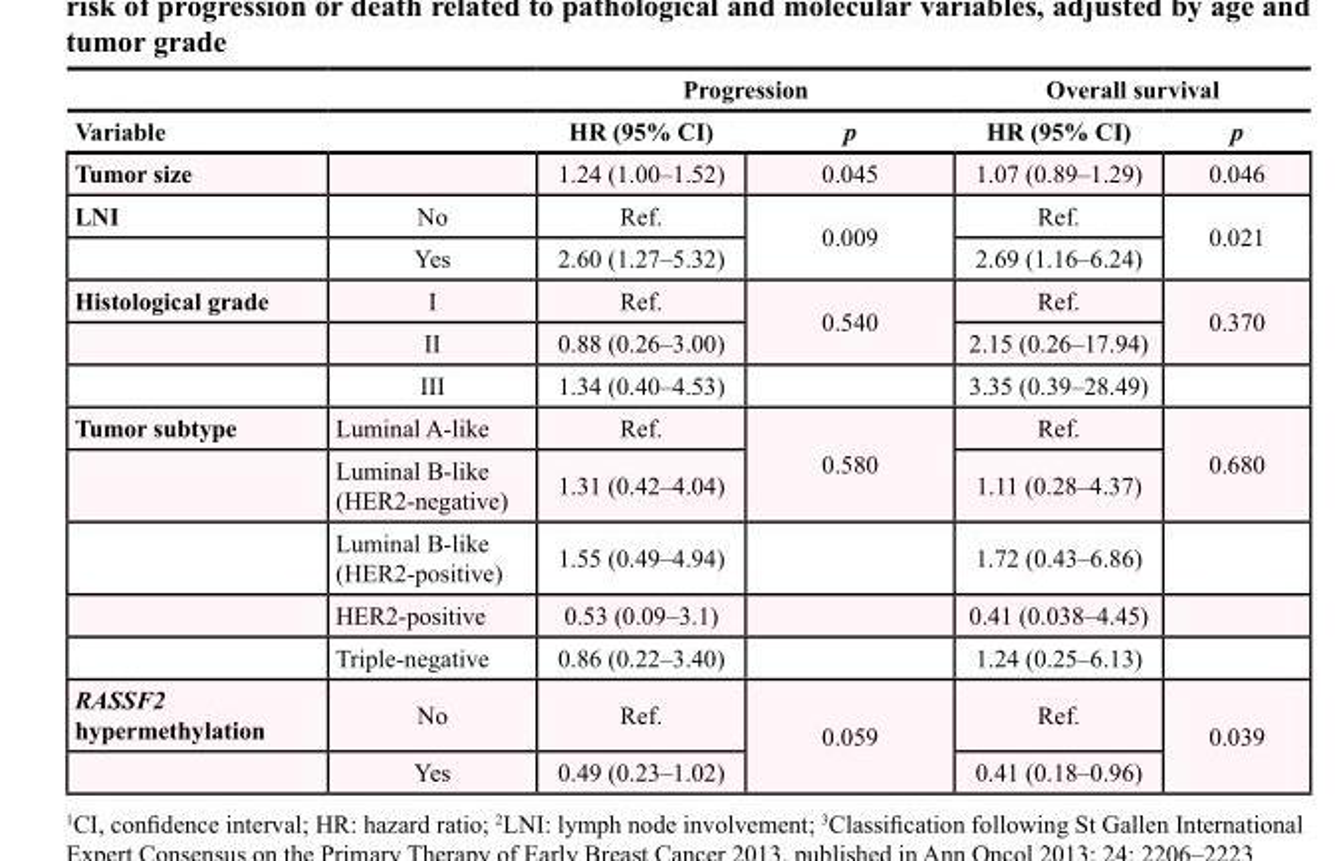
<table><thead><tr><td></td><td></td><td colspan="2">Progression</td><td colspan="2">Overall survival</td></tr><tr><td colspan="2">Variable</td><td>HR (95% CI)</td><td>p</td><td>HR (95% CI)</td><td>p</td></tr></thead><tbody><tr><td>Tumor size</td><td></td><td>1.24 (1.00–1.52)</td><td>0.045</td><td>1.07 (0.89–1.29)</td><td>0.046</td></tr><tr><td rowspan="2">LNI</td><td>No</td><td>Ref.</td><td rowspan="2">0.009</td><td>Ref.</td><td rowspan="2">0.021</td></tr><tr><td>Yes</td><td>2.60 (1.27–5.32)</td><td>2.69 (1.16–6.24)</td></tr><tr><td rowspan="3">Histological grade</td><td>I</td><td>Ref.</td><td rowspan="2">0.540</td><td>Ref.</td><td rowspan="2">0.370</td></tr><tr><td>II</td><td>0.88 (0.26–3.00)</td><td>2.15 (0.26–17.94)</td></tr><tr><td>III</td><td>1.34 (0.40–4.53)</td><td></td><td>3.35 (0.39–28.49)</td><td></td></tr><tr><td rowspan="5">Tumor subtype</td><td>Luminal A-like</td><td>Ref.</td><td rowspan="2">0.580</td><td>Ref.</td><td rowspan="2">0.680</td></tr><tr><td>Luminal B-like (HER2-negative)</td><td>1.31 (0.42–4.04)</td><td>1.11 (0.28–4.37)</td></tr><tr><td>Luminal B-like (HER2-positive)</td><td>1.55 (0.49–4.94)</td><td></td><td>1.72 (0.43–6.86)</td><td></td></tr><tr><td>HER2-positive</td><td>0.53 (0.09–3.1)</td><td></td><td>0.41 (0.038–4.45)</td><td></td></tr><tr><td>Triple-negative</td><td>0.86 (0.22–3.40)</td><td></td><td>1.24 (0.25–6.13)</td><td></td></tr><tr><td rowspan="2">RASSF2 hypermethylation</td><td>No</td><td>Ref.</td><td rowspan="2">0.059</td><td>Ref.</td><td rowspan="2">0.039</td></tr><tr><td>Yes</td><td>0.49 (0.23–1.02)</td><td>0.41 (0.18–0.96)</td></tr></tbody></table>